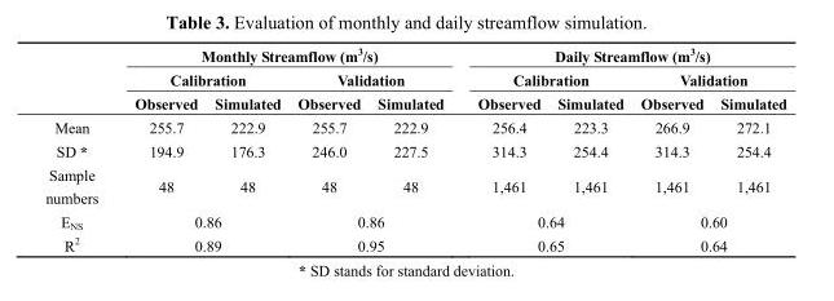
<table><thead><tr><td rowspan="3"></td><td colspan="4">Monthly Streamflow (m<sup>3</sup>/s)</td><td colspan="4">Daily Streamflow (m<sup>3</sup>/s)</td></tr><tr><td colspan="2">Calibration</td><td colspan="2">Validation</td><td colspan="2">Calibration</td><td colspan="2">Validation</td></tr><tr><td>Observed</td><td>Simulated</td><td>Observed</td><td>Simulated</td><td>Observed</td><td>Simulated</td><td>Observed</td><td>Simulated</td></tr></thead><tbody><tr><td>Mean</td><td>255.7</td><td>222.9</td><td>255.7</td><td>222.9</td><td>256.4</td><td>223.3</td><td>266.9</td><td>272.1</td></tr><tr><td>SD *</td><td>194.9</td><td>176.3</td><td>246.0</td><td>227.5</td><td>314.3</td><td>254.4</td><td>314.3</td><td>254.4</td></tr><tr><td>Sample numbers</td><td>48</td><td>48</td><td>48</td><td>48</td><td>1,461</td><td>1,461</td><td>1,461</td><td>1,461</td></tr><tr><td>E<sub>NS</sub></td><td colspan="2">0.86</td><td colspan="2">0.86</td><td colspan="2">0.64</td><td colspan="2">0.60</td></tr><tr><td>R<sup>2</sup></td><td colspan="2">0.89</td><td colspan="2">0.95</td><td colspan="2">0.65</td><td colspan="2">0.64</td></tr></tbody></table>